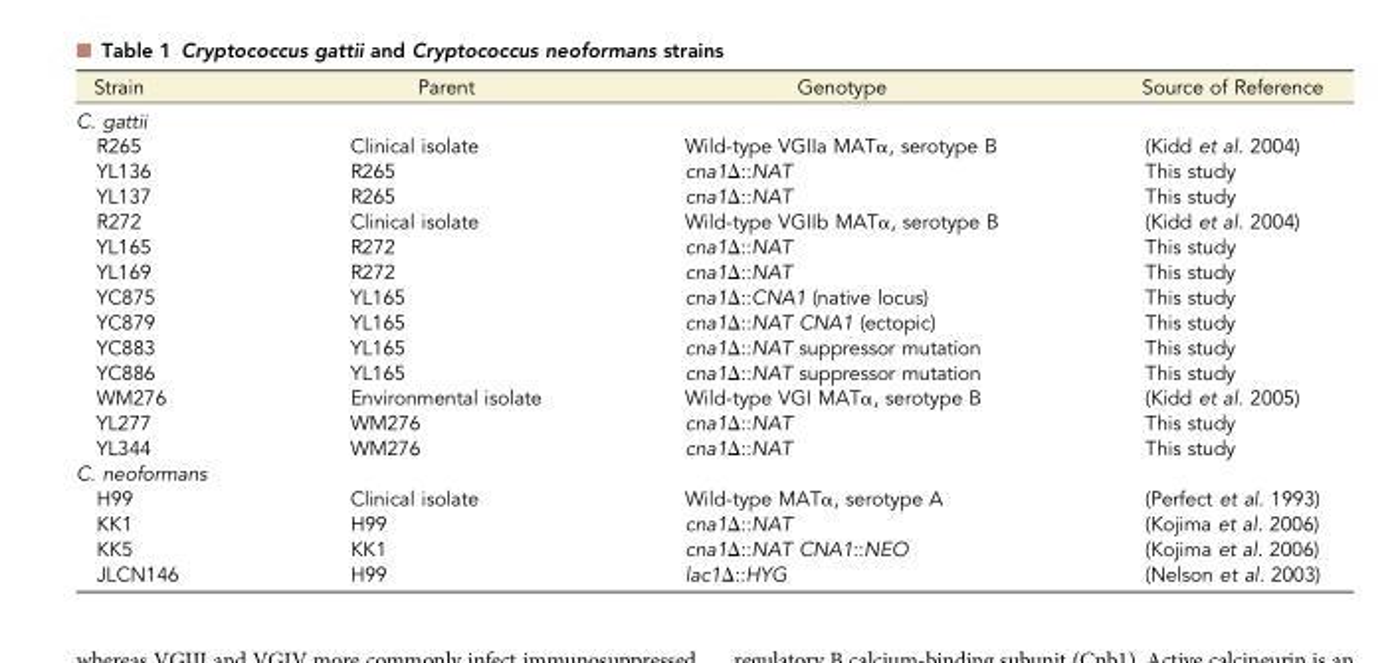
<table><thead><tr><td>Strain</td><td>Parent</td><td>Genotype</td><td>Source of Reference</td></tr></thead><tbody><tr><td colspan="4">C. gattii</td></tr><tr><td>R265</td><td>Clinical isolate</td><td>Wild-type VGIIa MATα, serotype B</td><td>(Kidd et al. 2004)</td></tr><tr><td>YL136</td><td>R265</td><td>cna1Δ::NAT</td><td>This study</td></tr><tr><td>YL137</td><td>R265</td><td>cna1Δ::NAT</td><td>This study</td></tr><tr><td>R272</td><td>Clinical isolate</td><td>Wild-type VGIIb MATα, serotype B</td><td>(Kidd et al. 2004)</td></tr><tr><td>YL165</td><td>R272</td><td>cna1Δ::NAT</td><td>This study</td></tr><tr><td>YL169</td><td>R272</td><td>cna1Δ::NAT</td><td>This study</td></tr><tr><td>YC875</td><td>YL165</td><td>cna1Δ::CNA1 (native locus)</td><td>This study</td></tr><tr><td>YC879</td><td>YL165</td><td>cna1Δ::NAT CNA1 (ectopic)</td><td>This study</td></tr><tr><td>YC883</td><td>YL165</td><td>cna1Δ::NAT suppressor mutation</td><td>This study</td></tr><tr><td>YC886</td><td>YL165</td><td>cna1Δ::NAT suppressor mutation</td><td>This study</td></tr><tr><td>WM276</td><td>Environmental isolate</td><td>Wild-type VGI MATα, serotype B</td><td>(Kidd et al. 2005)</td></tr><tr><td>YL277</td><td>WM276</td><td>cna1Δ::NAT</td><td>This study</td></tr><tr><td>YL344</td><td>WM276</td><td>cna1Δ::NAT</td><td>This study</td></tr><tr><td colspan="4">C. neoformans</td></tr><tr><td>H99</td><td>Clinical isolate</td><td>Wild-type MATα, serotype A</td><td>(Perfect et al. 1993)</td></tr><tr><td>KK1</td><td>H99</td><td>cna1Δ::NAT</td><td>(Kojima et al. 2006)</td></tr><tr><td>KK5</td><td>KK1</td><td>cna1Δ::NAT CNA1::NEO</td><td>(Kojima et al. 2006)</td></tr><tr><td>JLCN146</td><td>H99</td><td>lac1Δ::HYG</td><td>(Nelson et al. 2003)</td></tr></tbody></table>